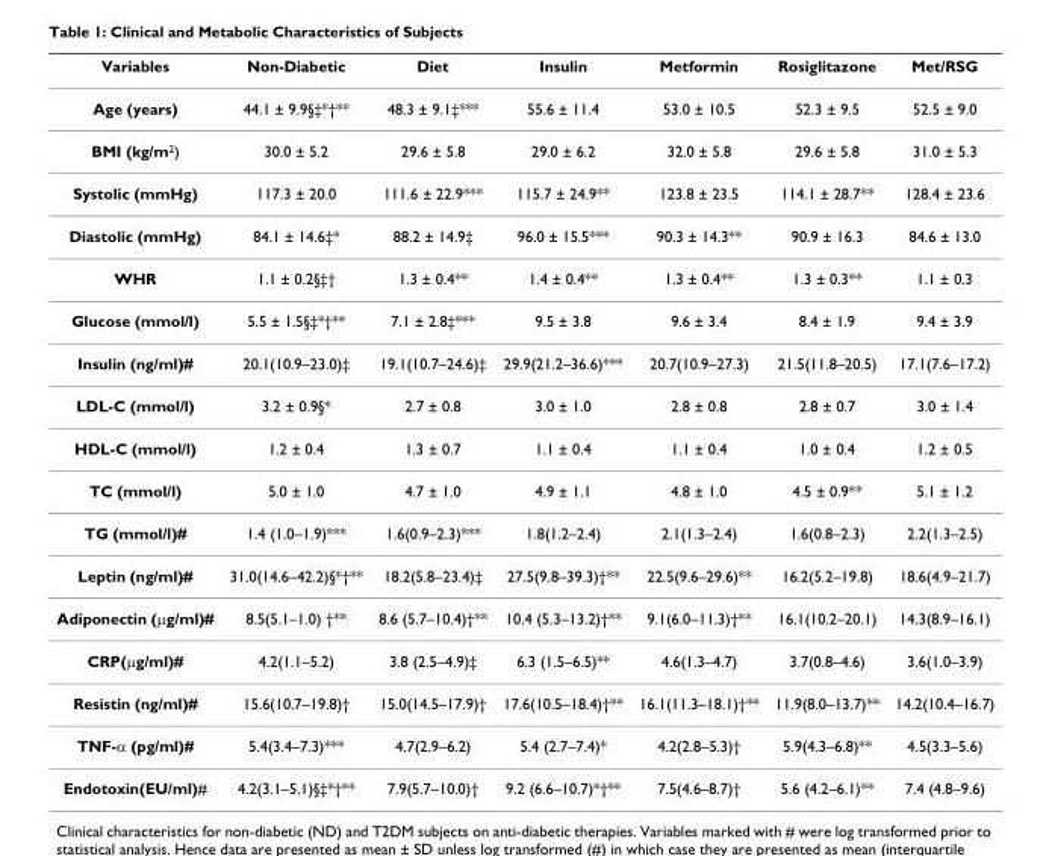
<table><thead><tr><td>Variables</td><td>Non-Diabetic</td><td>Diet</td><td>Insulin</td><td>Metformin</td><td>Rosiglitazone</td><td>Met/RSG</td></tr></thead><tbody><tr><td>Age (years)</td><td>44.1 ± 9.9§‡*†**</td><td>48.3 ± 9.1‡***</td><td>55.6 ± 11.4</td><td>53.0 ± 10.5</td><td>52.3 ± 9.5</td><td>52.5 ± 9.0</td></tr><tr><td>BMI (kg/m<sup>2</sup>)</td><td>30.0 ± 5.2</td><td>29.6 ± 5.8</td><td>29.0 ± 6.2</td><td>32.0 ± 5.8</td><td>29.6 ± 5.8</td><td>31.0 ± 5.3</td></tr><tr><td>Systolic (mmHg)</td><td>117.3 ± 20.0</td><td>111.6 ± 22.9***</td><td>115.7 ± 24.9**</td><td>123.8 ± 23.5</td><td>114.1 ± 28.7**</td><td>128.4 ± 23.6</td></tr><tr><td>Diastolic (mmHg)</td><td>84.1 ± 14.6‡*</td><td>88.2 ± 14.9‡</td><td>96.0 ± 15.5***</td><td>90.3 ± 14.3**</td><td>90.9 ± 16.3</td><td>84.6 ± 13.0</td></tr><tr><td>WHR</td><td>1.1 ± 0.2§‡†</td><td>1.3 ± 0.4**</td><td>1.4 ± 0.4**</td><td>1.3 ± 0.4**</td><td>1.3 ± 0.3**</td><td>1.1 ± 0.3</td></tr><tr><td>Glucose (mmol/l)</td><td>5.5 ± 1.5§‡*†**</td><td>7.1 ± 2.8‡***</td><td>9.5 ± 3.8</td><td>9.6 ± 3.4</td><td>8.4 ± 1.9</td><td>9.4 ± 3.9</td></tr><tr><td>Insulin (ng/ml)#</td><td>20.1(10.9–23.0)‡</td><td>19.1(10.7–24.6)‡</td><td>29.9(21.2–36.6)***</td><td>20.7(10.9–27.3)</td><td>21.5(11.8–20.5)</td><td>17.1(7.6–17.2)</td></tr><tr><td>LDL-C (mmol/l)</td><td>3.2 ± 0.9§*</td><td>2.7 ± 0.8</td><td>3.0 ± 1.0</td><td>2.8 ± 0.8</td><td>2.8 ± 0.7</td><td>3.0 ± 1.4</td></tr><tr><td>HDL-C (mmol/l)</td><td>1.2 ± 0.4</td><td>1.3 ± 0.7</td><td>1.1 ± 0.4</td><td>1.1 ± 0.4</td><td>1.0 ± 0.4</td><td>1.2 ± 0.5</td></tr><tr><td>TC (mmol/l)</td><td>5.0 ± 1.0</td><td>4.7 ± 1.0</td><td>4.9 ± 1.1</td><td>4.8 ± 1.0</td><td>4.5 ± 0.9**</td><td>5.1 ± 1.2</td></tr><tr><td>TG (mmol/l)#</td><td>1.4 (1.0–1.9)***</td><td>1.6(0.9–2.3)***</td><td>1.8(1.2–2.4)</td><td>2.1(1.3–2.4)</td><td>1.6(0.8–2.3)</td><td>2.2(1.3–2.5)</td></tr><tr><td>Leptin (ng/ml)#</td><td>31.0(14.6–42.2)§*†**</td><td>18.2(5.8–23.4)‡</td><td>27.5(9.8–39.3)†**</td><td>22.5(9.6–29.6)**</td><td>16.2(5.2–19.8)</td><td>18.6(4.9–21.7)</td></tr><tr><td>Adiponectin (μg/ml)#</td><td>8.5(5.1–1.0) †**</td><td>8.6 (5.7–10.4)†**</td><td>10.4 (5.3–13.2)†**</td><td>9.1(6.0–11.3)†**</td><td>16.1(10.2–20.1)</td><td>14.3(8.9–16.1)</td></tr><tr><td>CRP(μg/ml)#</td><td>4.2(1.1–5.2)</td><td>3.8 (2.5–4.9)‡</td><td>6.3 (1.5–6.5)**</td><td>4.6(1.3–4.7)</td><td>3.7(0.8–4.6)</td><td>3.6(1.0–3.9)</td></tr><tr><td>Resistin (ng/ml)#</td><td>15.6(10.7–19.8)†</td><td>15.0(14.5–17.9)†</td><td>17.6(10.5–18.4)†**</td><td>16.1(11.3–18.1)†**</td><td>11.9(8.0–13.7)**</td><td>14.2(10.4–16.7)</td></tr><tr><td>TNF-α (pg/ml)#</td><td>5.4(3.4–7.3)***</td><td>4.7(2.9–6.2)</td><td>5.4 (2.7–7.4)*</td><td>4.2(2.8–5.3)†</td><td>5.9(4.3–6.8)**</td><td>4.5(3.3–5.6)</td></tr><tr><td>Endotoxin(EU/ml)#</td><td>4.2(3.1–5.1)§‡*†**</td><td>7.9(5.7–10.0)†</td><td>9.2 (6.6–10.7)*†**</td><td>7.5(4.6–8.7)†</td><td>5.6 (4.2–6.1)**</td><td>7.4 (4.8–9.6)</td></tr></tbody></table>